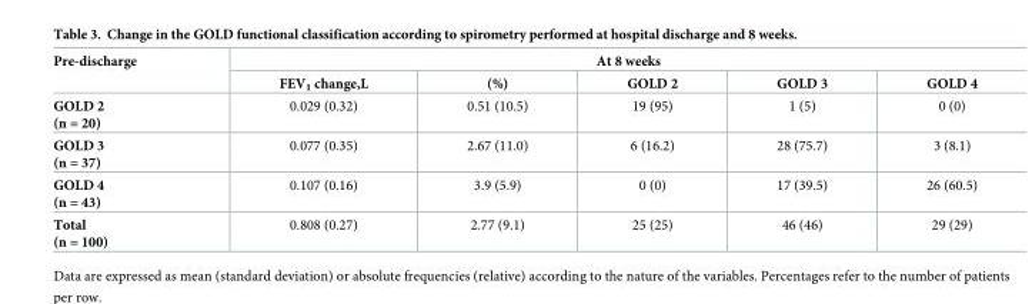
<table><thead><tr><td rowspan="2">Pre-discharge</td><td colspan="5">At 8 weeks</td></tr><tr><td>FEV<sub>1</sub> change,L</td><td>(%)</td><td>GOLD 2</td><td>GOLD 3</td><td>GOLD 4</td></tr></thead><tbody><tr><td>GOLD 2 (n = 20)</td><td>0.029 (0.32)</td><td>0.51 (10.5)</td><td>19 (95)</td><td>1 (5)</td><td>0 (0)</td></tr><tr><td>GOLD 3 (n = 37)</td><td>0.077 (0.35)</td><td>2.67 (11.0)</td><td>6 (16.2)</td><td>28 (75.7)</td><td>3 (8.1)</td></tr><tr><td>GOLD 4 (n = 43)</td><td>0.107 (0.16)</td><td>3.9 (5.9)</td><td>0 (0)</td><td>17 (39.5)</td><td>26 (60.5)</td></tr><tr><td>Total (n = 100)</td><td>0.808 (0.27)</td><td>2.77 (9.1)</td><td>25 (25)</td><td>46 (46)</td><td>29 (29)</td></tr></tbody></table>